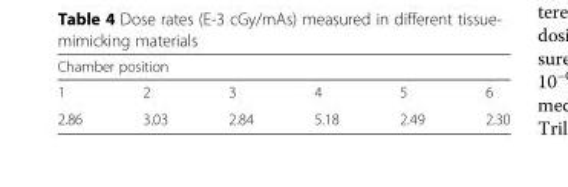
<table><thead><tr><td colspan="6">Chamber position</td></tr><tr><td>1</td><td>2</td><td>3</td><td>4</td><td>5</td><td>6</td></tr></thead><tbody><tr><td>2.86</td><td>3.03</td><td>2.84</td><td>5.18</td><td>2.49</td><td>2.30</td></tr></tbody></table>